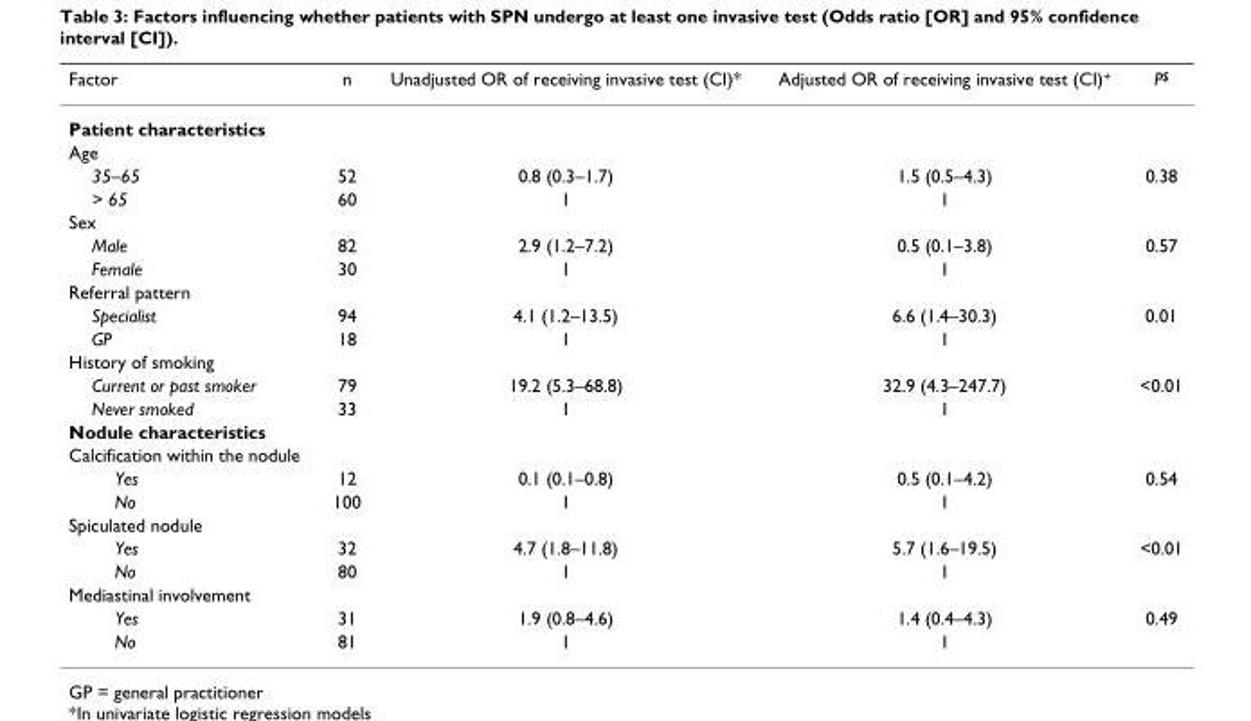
<table><thead><tr><td>Factor</td><td>n</td><td>Unadjusted OR of receiving invasive test (CI)*</td><td>Adjusted OR of receiving invasive test (CI)<sup>+</sup></td><td>P<sup>$</sup></td></tr></thead><tbody><tr><td colspan="5">Patient characteristics</td></tr><tr><td colspan="5">Age</td></tr><tr><td>35–65</td><td>52</td><td>0.8 (0.3–1.7)</td><td>1.5 (0.5–4.3)</td><td>0.38</td></tr><tr><td>&gt; 65</td><td>60</td><td>1</td><td>1</td><td></td></tr><tr><td colspan="5">Sex</td></tr><tr><td>Male</td><td>82</td><td>2.9 (1.2–7.2)</td><td>0.5 (0.1–3.8)</td><td>0.57</td></tr><tr><td>Female</td><td>30</td><td>1</td><td>1</td><td></td></tr><tr><td colspan="5">Referral pattern</td></tr><tr><td>Specialist</td><td>94</td><td>4.1 (1.2–13.5)</td><td>6.6 (1.4–30.3)</td><td>0.01</td></tr><tr><td>GP</td><td>18</td><td>1</td><td>1</td><td></td></tr><tr><td colspan="5">History of smoking</td></tr><tr><td>Current or past smoker</td><td>79</td><td>19.2 (5.3–68.8)</td><td>32.9 (4.3–247.7)</td><td>&lt;0.01</td></tr><tr><td>Never smoked</td><td>33</td><td>1</td><td>1</td><td></td></tr><tr><td colspan="5">Nodule characteristics</td></tr><tr><td colspan="5">Calcification within the nodule</td></tr><tr><td>Yes</td><td>12</td><td>0.1 (0.1–0.8)</td><td>0.5 (0.1–4.2)</td><td>0.54</td></tr><tr><td>No</td><td>100</td><td>1</td><td>1</td><td></td></tr><tr><td colspan="5">Spiculated nodule</td></tr><tr><td>Yes</td><td>32</td><td>4.7 (1.8–11.8)</td><td>5.7 (1.6–19.5)</td><td>&lt;0.01</td></tr><tr><td>No</td><td>80</td><td>1</td><td>1</td><td></td></tr><tr><td colspan="5">Mediastinal involvement</td></tr><tr><td>Yes</td><td>31</td><td>1.9 (0.8–4.6)</td><td>1.4 (0.4–4.3)</td><td>0.49</td></tr><tr><td>No</td><td>81</td><td>1</td><td>1</td><td></td></tr></tbody></table>